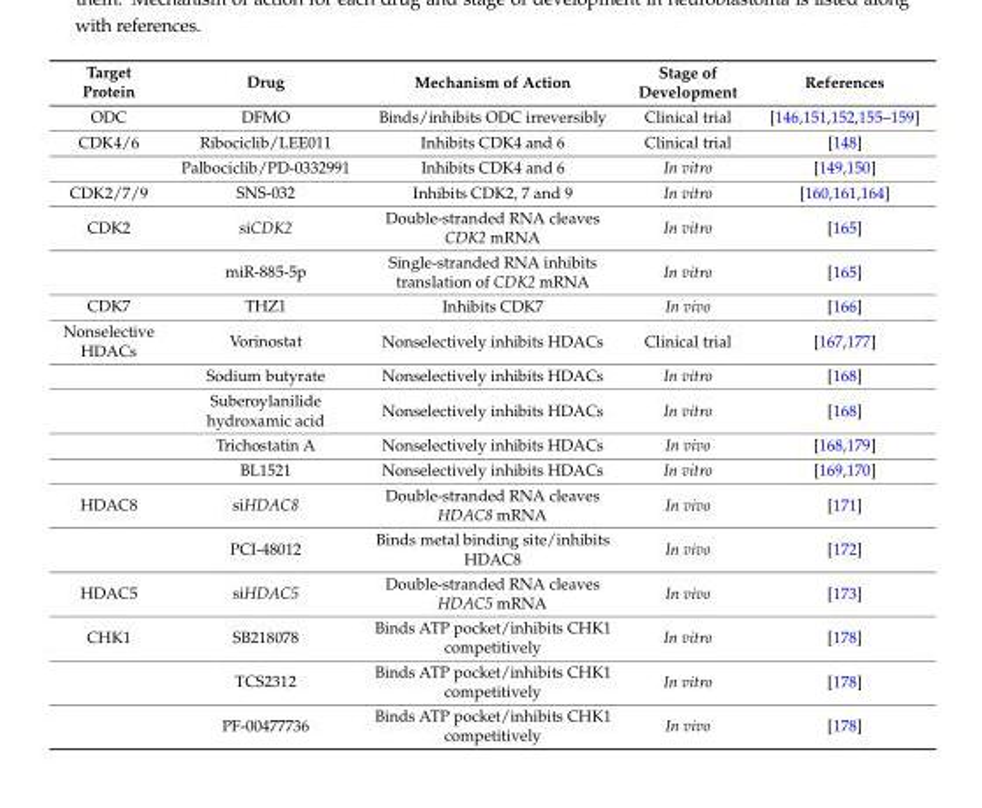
<table><thead><tr><td>Target Protein</td><td>Drug</td><td>Mechanism of Action</td><td>Stage of Development</td><td>References</td></tr></thead><tbody><tr><td>ODC</td><td>DFMO</td><td>Binds/inhibits ODC irreversibly</td><td>Clinical trial</td><td>[146,151,152,155–159]</td></tr><tr><td rowspan="2">CDK4/6</td><td>Ribociclib/LEE011</td><td>Inhibits CDK4 and 6</td><td>Clinical trial</td><td>[148]</td></tr><tr><td>Palbociclib/PD-0332991</td><td>Inhibits CDK4 and 6</td><td>In vitro</td><td>[149,150]</td></tr><tr><td>CDK2/7/9</td><td>SNS-032</td><td>Inhibits CDK2, 7 and 9</td><td>In vitro</td><td>[160,161,164]</td></tr><tr><td rowspan="2">CDK2</td><td>siCDK2</td><td>Double-stranded RNA cleaves CDK2 mRNA</td><td>In vitro</td><td>[165]</td></tr><tr><td>miR-885-5p</td><td>Single-stranded RNA inhibits translation of CDK2 mRNA</td><td>In vitro</td><td>[165]</td></tr><tr><td>CDK7</td><td>THZ1</td><td>Inhibits CDK7</td><td>In vivo</td><td>[166]</td></tr><tr><td rowspan="5">Nonselective HDACs</td><td>Vorinostat</td><td>Nonselectively inhibits HDACs</td><td>Clinical trial</td><td>[167,177]</td></tr><tr><td>Sodium butyrate</td><td>Nonselectively inhibits HDACs</td><td>In vitro</td><td>[168]</td></tr><tr><td>Suberoylanilide hydroxamic acid</td><td>Nonselectively inhibits HDACs</td><td>In vitro</td><td>[168]</td></tr><tr><td>Trichostatin A</td><td>Nonselectively inhibits HDACs</td><td>In vivo</td><td>[168,179]</td></tr><tr><td>BL1521</td><td>Nonselectively inhibits HDACs</td><td>In vitro</td><td>[169,170]</td></tr><tr><td rowspan="2">HDAC8</td><td>siHDAC8</td><td>Double-stranded RNA cleaves HDAC8 mRNA</td><td>In vivo</td><td>[171]</td></tr><tr><td>PCI-48012</td><td>Binds metal binding site/inhibits HDAC8</td><td>In vivo</td><td>[172]</td></tr><tr><td>HDAC5</td><td>siHDAC5</td><td>Double-stranded RNA cleaves HDAC5 mRNA</td><td>In vivo</td><td>[173]</td></tr><tr><td rowspan="3">CHK1</td><td>SB218078</td><td>Binds ATP pocket/inhibits CHK1 competitively</td><td>In vitro</td><td>[178]</td></tr><tr><td>TCS2312</td><td>Binds ATP pocket/inhibits CHK1 competitively</td><td>In vitro</td><td>[178]</td></tr><tr><td>PF-00477736</td><td>Binds ATP pocket/inhibits CHK1 competitively</td><td>In vivo</td><td>[178]</td></tr></tbody></table>